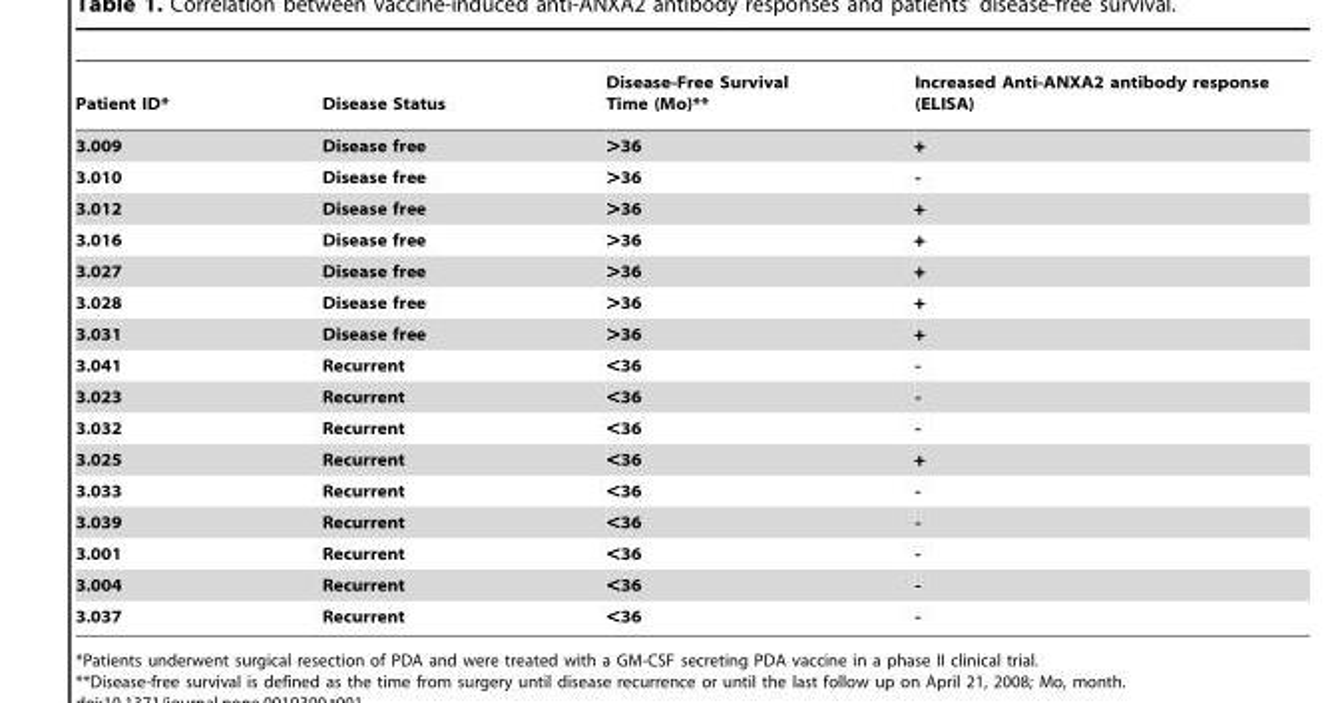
<table><thead><tr><td>Patient ID*</td><td>Disease Status</td><td>Disease-Free Survival Time (Mo)**</td><td>Increased Anti-ANXA2 antibody response (ELISA)</td></tr></thead><tbody><tr><td>3.009</td><td>Disease free</td><td>&gt;36</td><td>+</td></tr><tr><td>3.010</td><td>Disease free</td><td>&gt;36</td><td>-</td></tr><tr><td>3.012</td><td>Disease free</td><td>&gt;36</td><td>+</td></tr><tr><td>3.016</td><td>Disease free</td><td>&gt;36</td><td>+</td></tr><tr><td>3.027</td><td>Disease free</td><td>&gt;36</td><td>+</td></tr><tr><td>3.028</td><td>Disease free</td><td>&gt;36</td><td>+</td></tr><tr><td>3.031</td><td>Disease free</td><td>&gt;36</td><td>+</td></tr><tr><td>3.041</td><td>Recurrent</td><td>&lt;36</td><td>-</td></tr><tr><td>3.023</td><td>Recurrent</td><td>&lt;36</td><td>-</td></tr><tr><td>3.032</td><td>Recurrent</td><td>&lt;36</td><td>-</td></tr><tr><td>3.025</td><td>Recurrent</td><td>&lt;36</td><td>+</td></tr><tr><td>3.033</td><td>Recurrent</td><td>&lt;36</td><td>-</td></tr><tr><td>3.039</td><td>Recurrent</td><td>&lt;36</td><td>-</td></tr><tr><td>3.001</td><td>Recurrent</td><td>&lt;36</td><td>-</td></tr><tr><td>3.004</td><td>Recurrent</td><td>&lt;36</td><td>-</td></tr><tr><td>3.037</td><td>Recurrent</td><td>&lt;36</td><td>-</td></tr></tbody></table>